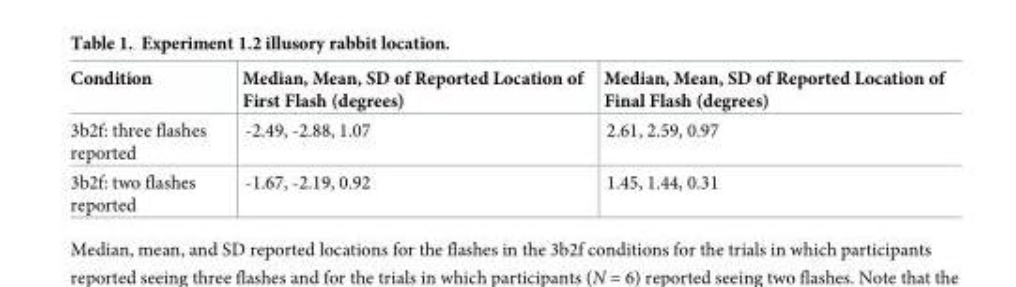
<table><thead><tr><td>Condition</td><td>Median, Mean, SD of Reported Location of First Flash (degrees)</td><td>Median, Mean, SD of Reported Location of Final Flash (degrees)</td></tr></thead><tbody><tr><td>3b2f: three flashes reported</td><td>-2.49, -2.88, 1.07</td><td>2.61, 2.59, 0.97</td></tr><tr><td>3b2f: two flashes reported</td><td>-1.67, -2.19, 0.92</td><td>1.45, 1.44, 0.31</td></tr></tbody></table>